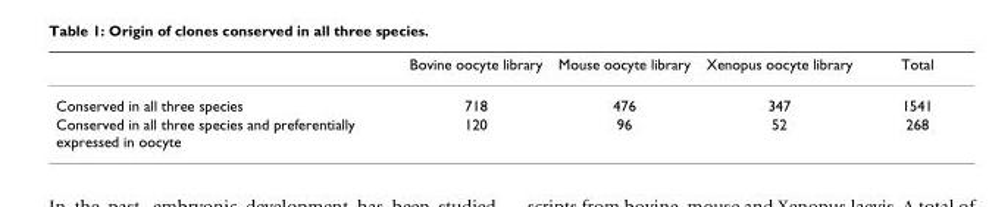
<table><thead><tr><td></td><td>Bovine oocyte library</td><td>Mouse oocyte library</td><td>Xenopus oocyte library</td><td>Total</td></tr></thead><tbody><tr><td>Conserved in all three species</td><td>718</td><td>476</td><td>347</td><td>1541</td></tr><tr><td>Conserved in all three species and preferentially expressed in oocyte</td><td>120</td><td>96</td><td>52</td><td>268</td></tr></tbody></table>